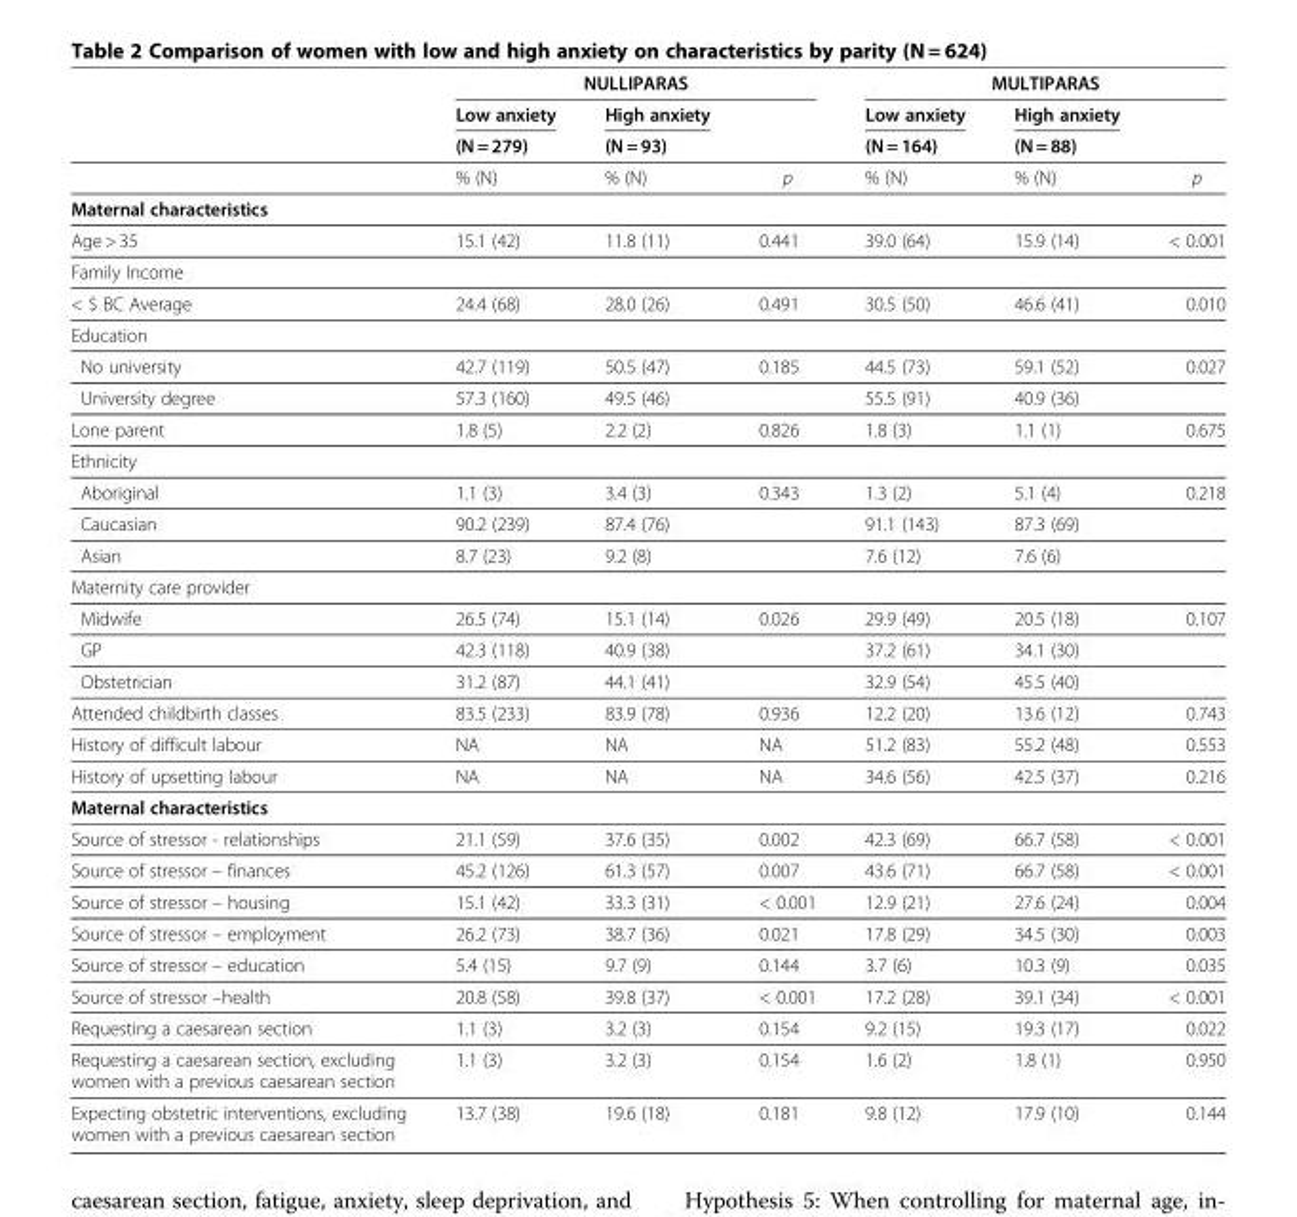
<table><thead><tr><td rowspan="3"></td><td colspan="3">NULLIPARAS</td><td colspan="3">MULTIPARAS</td></tr><tr><td rowspan="2">Low anxiety (N = 279)</td><td rowspan="2">High anxiety (N = 93)</td><td rowspan="2"></td><td rowspan="2">Low anxiety (N = 164)</td><td rowspan="2">High anxiety (N = 88)</td><td rowspan="2"></td></tr><tr></tr></thead><tbody><tr><td></td><td>% (N)</td><td>% (N)</td><td>p</td><td>% (N)</td><td>% (N)</td><td>p</td></tr><tr><td colspan="7">Maternal characteristics</td></tr><tr><td>Age &gt; 35</td><td>15.1 (42)</td><td>11.8 (11)</td><td>0.441</td><td>39.0 (64)</td><td>15.9 (14)</td><td>&lt; 0.001</td></tr><tr><td colspan="7">Family Income</td></tr><tr><td>&lt; $ BC Average</td><td>24.4 (68)</td><td>28.0 (26)</td><td>0.491</td><td>30.5 (50)</td><td>46.6 (41)</td><td>0.010</td></tr><tr><td colspan="7">Education</td></tr><tr><td>No university</td><td>42.7 (119)</td><td>50.5 (47)</td><td>0.185</td><td>44.5 (73)</td><td>59.1 (52)</td><td>0.027</td></tr><tr><td>University degree</td><td>57.3 (160)</td><td>49.5 (46)</td><td></td><td>55.5 (91)</td><td>40.9 (36)</td><td></td></tr><tr><td>Lone parent</td><td>1.8 (5)</td><td>2.2 (2)</td><td>0.826</td><td>1.8 (3)</td><td>1.1 (1)</td><td>0.675</td></tr><tr><td colspan="7">Ethnicity</td></tr><tr><td>Aboriginal</td><td>1.1 (3)</td><td>3.4 (3)</td><td>0.343</td><td>1.3 (2)</td><td>5.1 (4)</td><td>0.218</td></tr><tr><td>Caucasian</td><td>90.2 (239)</td><td>87.4 (76)</td><td></td><td>91.1 (143)</td><td>87.3 (69)</td><td></td></tr><tr><td>Asian</td><td>8.7 (23)</td><td>9.2 (8)</td><td></td><td>7.6 (12)</td><td>7.6 (6)</td><td></td></tr><tr><td colspan="7">Maternity care provider</td></tr><tr><td>Midwife</td><td>26.5 (74)</td><td>15.1 (14)</td><td>0.026</td><td>29.9 (49)</td><td>20.5 (18)</td><td>0.107</td></tr><tr><td>GP</td><td>42.3 (118)</td><td>40.9 (38)</td><td></td><td>37.2 (61)</td><td>34.1 (30)</td><td></td></tr><tr><td>Obstetrician</td><td>31.2 (87)</td><td>44.1 (41)</td><td></td><td>32.9 (54)</td><td>45.5 (40)</td><td></td></tr><tr><td>Attended childbirth classes</td><td>83.5 (233)</td><td>83.9 (78)</td><td>0.936</td><td>12.2 (20)</td><td>13.6 (12)</td><td>0.743</td></tr><tr><td>History of difficult labour</td><td>NA</td><td>NA</td><td>NA</td><td>51.2 (83)</td><td>55.2 (48)</td><td>0.553</td></tr><tr><td>History of upsetting labour</td><td>NA</td><td>NA</td><td>NA</td><td>34.6 (56)</td><td>42.5 (37)</td><td>0.216</td></tr><tr><td colspan="7">Maternal characteristics</td></tr><tr><td>Source of stressor - relationships</td><td>21.1 (59)</td><td>37.6 (35)</td><td>0.002</td><td>42.3 (69)</td><td>66.7 (58)</td><td>&lt; 0.001</td></tr><tr><td>Source of stressor – finances</td><td>45.2 (126)</td><td>61.3 (57)</td><td>0.007</td><td>43.6 (71)</td><td>66.7 (58)</td><td>&lt; 0.001</td></tr><tr><td>Source of stressor – housing</td><td>15.1 (42)</td><td>33.3 (31)</td><td>&lt; 0.001</td><td>12.9 (21)</td><td>27.6 (24)</td><td>0.004</td></tr><tr><td>Source of stressor – employment</td><td>26.2 (73)</td><td>38.7 (36)</td><td>0.021</td><td>17.8 (29)</td><td>34.5 (30)</td><td>0.003</td></tr><tr><td>Source of stressor – education</td><td>5.4 (15)</td><td>9.7 (9)</td><td>0.144</td><td>3.7 (6)</td><td>10.3 (9)</td><td>0.035</td></tr><tr><td>Source of stressor –health</td><td>20.8 (58)</td><td>39.8 (37)</td><td>&lt; 0.001</td><td>17.2 (28)</td><td>39.1 (34)</td><td>&lt; 0.001</td></tr><tr><td>Requesting a caesarean section</td><td>1.1 (3)</td><td>3.2 (3)</td><td>0.154</td><td>9.2 (15)</td><td>19.3 (17)</td><td>0.022</td></tr><tr><td>Requesting a caesarean section, excluding women with a previous caesarean section</td><td>1.1 (3)</td><td>3.2 (3)</td><td>0.154</td><td>1.6 (2)</td><td>1.8 (1)</td><td>0.950</td></tr><tr><td>Expecting obstetric interventions, excluding women with a previous caesarean section</td><td>13.7 (38)</td><td>19.6 (18)</td><td>0.181</td><td>9.8 (12)</td><td>17.9 (10)</td><td>0.144</td></tr></tbody></table>